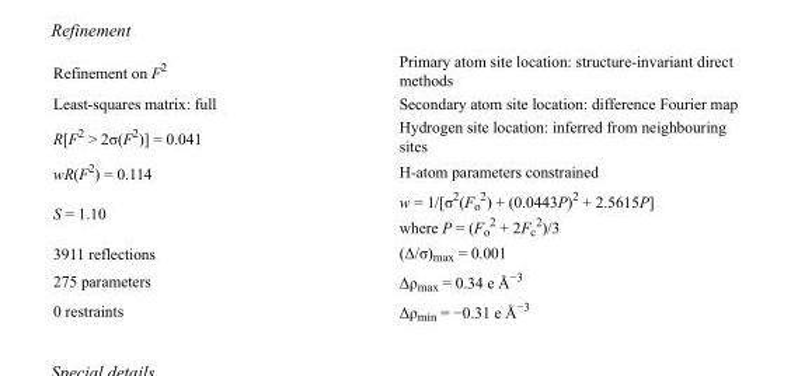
<table><tbody><tr><td>Refinement on F<sup>2</sup></td><td>Primary atom site location: structure-invariant direct methods</td></tr><tr><td>Least-squares matrix: full</td><td>Secondary atom site location: difference Fourier map</td></tr><tr><td>R[F<sup>2</sup> &gt; 2σ(F<sup>2</sup>)] = 0.041</td><td>Hydrogen site location: inferred from neighbouring sites</td></tr><tr><td>wR(F<sup>2</sup>) = 0.114</td><td>H-atom parameters constrained</td></tr><tr><td>S = 1.10</td><td>w = 1/[σ<sup>2</sup>(F<sub>o</sub> <sup>2</sup>) + (0.0443P)<sup>2</sup> + 2.5615P] where P = (F<sub>o</sub> <sup>2</sup> + 2F<sub>c</sub> <sup>2</sup>)/3</td></tr><tr><td>3911 reflections</td><td>(Δ/σ)<sub>max</sub> = 0.001</td></tr><tr><td>275 parameters</td><td>Δρ<sub>max</sub> = 0.34 e Å<sup>−3</sup></td></tr><tr><td>0 restraints</td><td>Δρ<sub>min</sub> = −0.31 e Å<sup>−3</sup></td></tr></tbody></table>